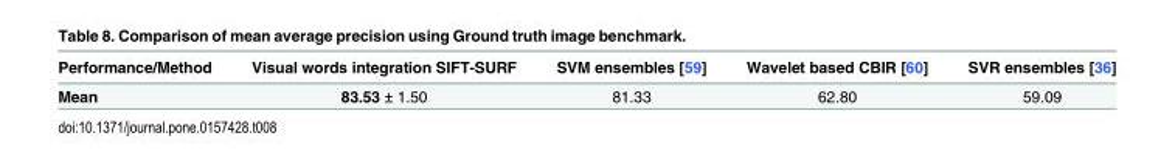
<table><thead><tr><td>Performance/Method</td><td>Visual words integration SIFT-SURF</td><td>SVM ensembles [59]</td><td>Wavelet based CBIR [60]</td><td>SVR ensembles [36]</td></tr></thead><tbody><tr><td>Mean</td><td>83.53 ± 1.50</td><td>81.33</td><td>62.80</td><td>59.09</td></tr></tbody></table>